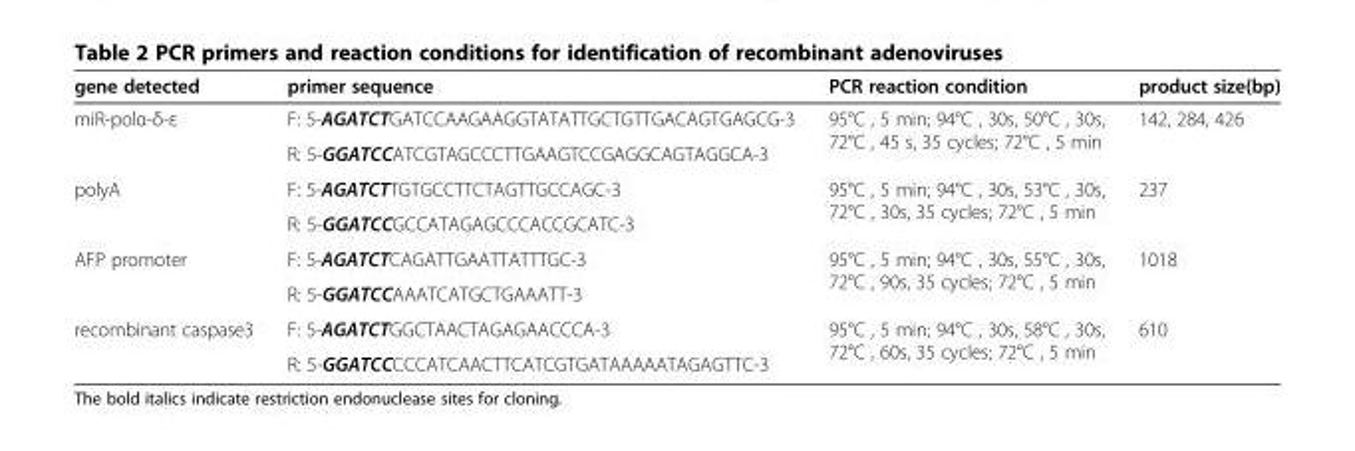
<table><thead><tr><td>gene detected</td><td>primer sequence</td><td>PCR reaction condition</td><td>product size(bp)</td></tr></thead><tbody><tr><td rowspan="2">miR-polα-δ-ε</td><td>F: 5-AGATCTGATCCAAGAAGGTATATTGCTGTTGACAGTGAGCG-3</td><td rowspan="2">95°C , 5 min; 94°C , 30s, 50°C , 30s, 72°C , 45 s, 35 cycles; 72°C , 5 min</td><td rowspan="2">142, 284, 426</td></tr><tr><td>R: 5-GGATCCATCGTAGCCCTTGAAGTCCGAGGCAGTAGGCA-3</td></tr><tr><td rowspan="2">polyA</td><td>F: 5-AGATCTTGTGCCTTCTAGTTGCCAGC-3</td><td rowspan="2">95°C , 5 min; 94°C , 30s, 53°C , 30s, 72°C , 30s, 35 cycles; 72°C , 5 min</td><td rowspan="2">237</td></tr><tr><td>R: 5-GGATCCGCCATAGAGCCCACCGCATC-3</td></tr><tr><td rowspan="2">AFP promoter</td><td>F: 5-AGATCTCAGATTGAATTATTTGC-3</td><td rowspan="2">95°C , 5 min; 94°C , 30s, 55°C , 30s, 72°C , 90s, 35 cycles; 72°C , 5 min</td><td rowspan="2">1018</td></tr><tr><td>R: 5-GGATCCAAATCATGCTGAAATT-3</td></tr><tr><td rowspan="2">recombinant caspase3</td><td>F: 5-AGATCTGGCTAACTAGAGAACCCA-3</td><td rowspan="2">95°C , 5 min; 94°C , 30s, 58°C , 30s, 72°C , 60s, 35 cycles; 72°C , 5 min</td><td rowspan="2">610</td></tr><tr><td>R: 5-GGATCCCCCATCAACTTCATCGTGATAAAAATAGAGTTC-3</td></tr></tbody></table>